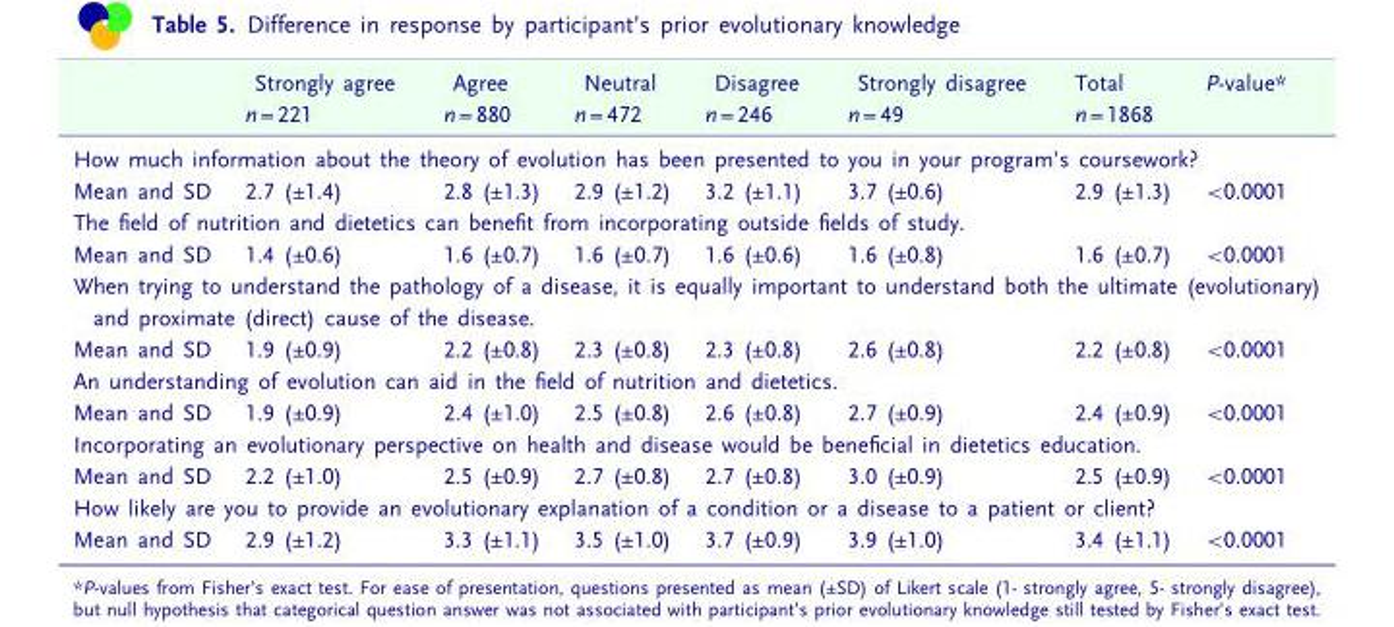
<table><thead><tr><td rowspan="2"></td><td rowspan="2">Strongly agree n = 221</td><td rowspan="2">Agree n = 880</td><td rowspan="2">Neutral n = 472</td><td rowspan="2">Disagree n = 246</td><td rowspan="2">Strongly disagree n = 49</td><td rowspan="2">Total n = 1868</td><td rowspan="2">P-value*</td></tr><tr></tr></thead><tbody><tr><td colspan="8">How much information about the theory of evolution has been presented to you in your program’s coursework?</td></tr><tr><td>Mean and SD</td><td>2.7 (±1.4)</td><td>2.8 (±1.3)</td><td>2.9 (±1.2)</td><td>3.2 (±1.1)</td><td>3.7 (±0.6)</td><td>2.9 (±1.3)</td><td>&lt;0.0001</td></tr><tr><td colspan="8">The field of nutrition and dietetics can benefit from incorporating outside fields of study.</td></tr><tr><td>Mean and SD</td><td>1.4 (±0.6)</td><td>1.6 (±0.7)</td><td>1.6 (±0.7)</td><td>1.6 (±0.6)</td><td>1.6 (±0.8)</td><td>1.6 (±0.7)</td><td>&lt;0.0001</td></tr><tr><td colspan="8">When trying to understand the pathology of a disease, it is equally important to understand both the ultimate (evolutionary) and proximate (direct) cause of the disease.</td></tr><tr><td>Mean and SD</td><td>1.9 (±0.9)</td><td>2.2 (±0.8)</td><td>2.3 (±0.8)</td><td>2.3 (±0.8)</td><td>2.6 (±0.8)</td><td>2.2 (±0.8)</td><td>&lt;0.0001</td></tr><tr><td colspan="8">An understanding of evolution can aid in the field of nutrition and dietetics.</td></tr><tr><td>Mean and SD</td><td>1.9 (±0.9)</td><td>2.4 (±1.0)</td><td>2.5 (±0.8)</td><td>2.6 (±0.8)</td><td>2.7 (±0.9)</td><td>2.4 (±0.9)</td><td>&lt;0.0001</td></tr><tr><td colspan="8">Incorporating an evolutionary perspective on health and disease would be beneficial in dietetics education.</td></tr><tr><td>Mean and SD</td><td>2.2 (±1.0)</td><td>2.5 (±0.9)</td><td>2.7 (±0.8)</td><td>2.7 (±0.8)</td><td>3.0 (±0.9)</td><td>2.5 (±0.9)</td><td>&lt;0.0001</td></tr><tr><td colspan="8">How likely are you to provide an evolutionary explanation of a condition or a disease to a patient or client?</td></tr><tr><td>Mean and SD</td><td>2.9 (±1.2)</td><td>3.3 (±1.1)</td><td>3.5 (±1.0)</td><td>3.7 (±0.9)</td><td>3.9 (±1.0)</td><td>3.4 (±1.1)</td><td>&lt;0.0001</td></tr></tbody></table>